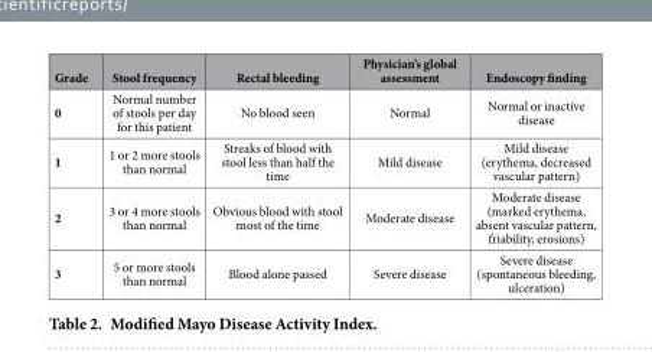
<table><thead><tr><td>Grade</td><td>Stool frequency</td><td>Rectal bleeding</td><td>Physician’s global assessment</td><td>Endoscopy finding</td></tr></thead><tbody><tr><td>0</td><td>Normal number of stools per day for this patient</td><td>No blood seen</td><td>Normal</td><td>Normal or inactive disease</td></tr><tr><td>1</td><td>1 or 2 more stools than normal</td><td>Streaks of blood with stool less than half the time</td><td>Mild disease</td><td>Mild disease (erythema, decreased vascular pattern)</td></tr><tr><td>2</td><td>3 or 4 more stools than normal</td><td>Obvious blood with stool most of the time</td><td>Moderate disease</td><td>Moderate disease (marked erythema, absent vascular pattern, friability, erosions)</td></tr><tr><td>3</td><td>5 or more stools than normal</td><td>Blood alone passed</td><td>Severe disease</td><td>Severe disease (spontaneous bleeding, ulceration)</td></tr></tbody></table>